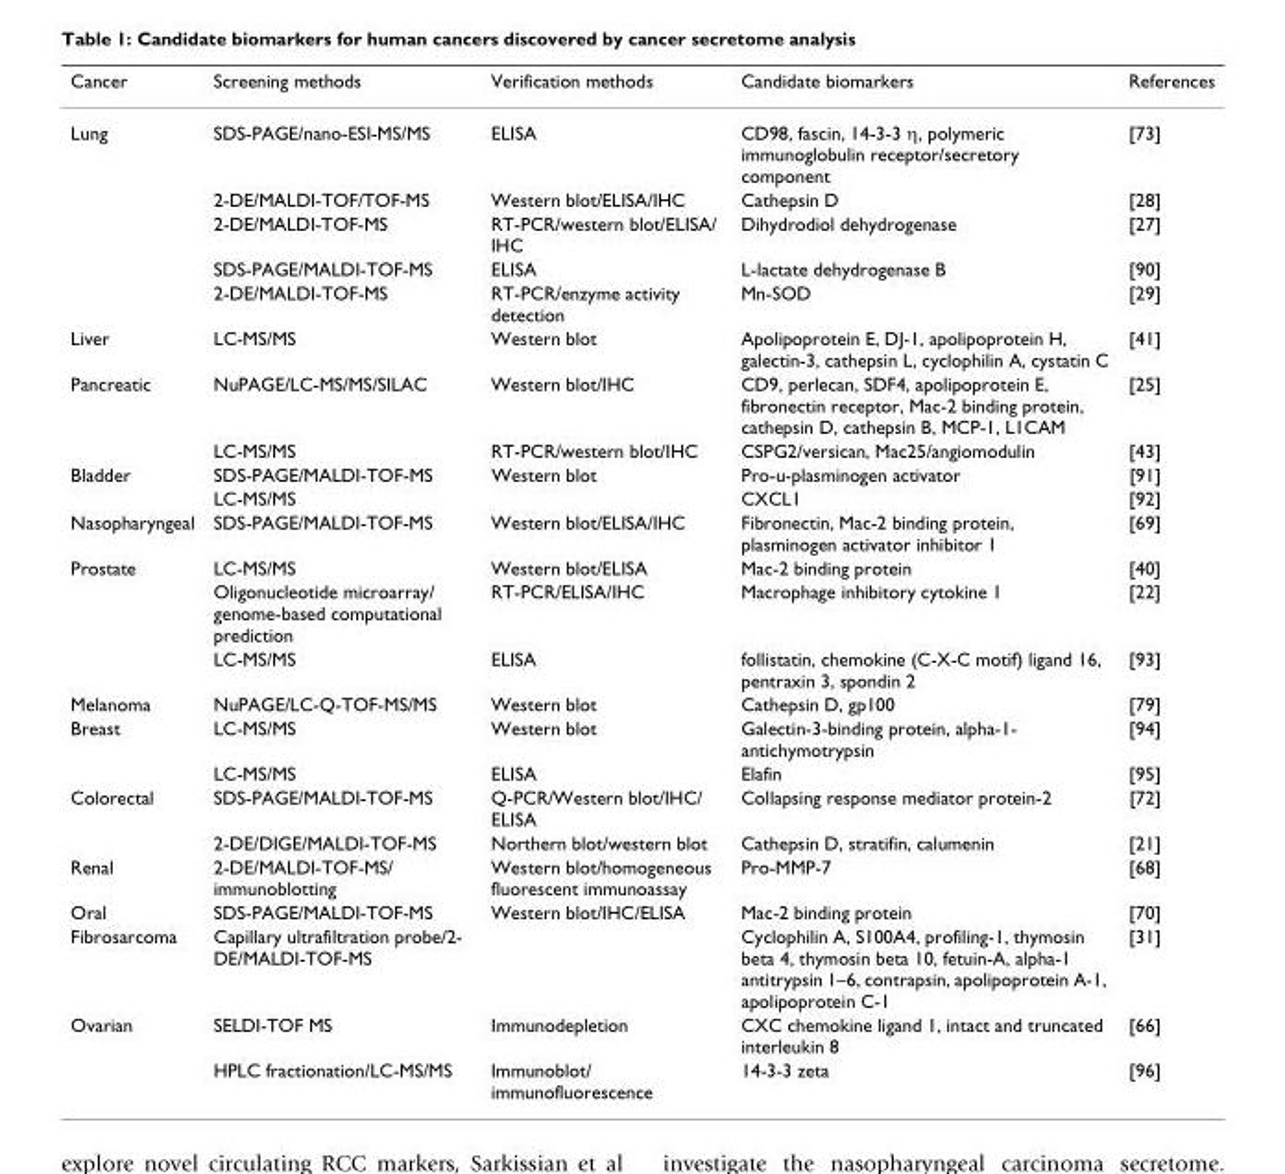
<table><thead><tr><td>Cancer</td><td>Screening methods</td><td>Verification methods</td><td>Candidate biomarkers</td><td>References</td></tr></thead><tbody><tr><td rowspan="5">Lung</td><td>SDS-PAGE/nano-ESI-MS/MS</td><td>ELISA</td><td>CD98, fascin, 14-3-3 η, polymeric immunoglobulin receptor/secretory component</td><td>[73]</td></tr><tr><td>2-DE/MALDI-TOF/TOF-MS</td><td>Western blot/ELISA/IHC</td><td>Cathepsin D</td><td>[28]</td></tr><tr><td>2-DE/MALDI-TOF-MS</td><td>RT-PCR/western blot/ELISA/ IHC</td><td>Dihydrodiol dehydrogenase</td><td>[27]</td></tr><tr><td>SDS-PAGE/MALDI-TOF-MS</td><td>ELISA</td><td>L-lactate dehydrogenase B</td><td>[90]</td></tr><tr><td>2-DE/MALDI-TOF-MS</td><td>RT-PCR/enzyme activity detection</td><td>Mn-SOD</td><td>[29]</td></tr><tr><td>Liver</td><td>LC-MS/MS</td><td>Western blot</td><td>Apolipoprotein E, DJ-1, apolipoprotein H, galectin-3, cathepsin L, cyclophilin A, cystatin C</td><td>[41]</td></tr><tr><td rowspan="2">Pancreatic</td><td>NuPAGE/LC-MS/MS/SILAC</td><td>Western blot/IHC</td><td>CD9, perlecan, SDF4, apolipoprotein E, fibronectin receptor, Mac-2 binding protein, cathepsin D, cathepsin B, MCP-1, L1CAM</td><td>[25]</td></tr><tr><td>LC-MS/MS</td><td>RT-PCR/western blot/IHC</td><td>CSPG2/versican, Mac25/angiomodulin</td><td>[43]</td></tr><tr><td rowspan="2">Bladder</td><td>SDS-PAGE/MALDI-TOF-MS</td><td>Western blot</td><td>Pro-u-plasminogen activator</td><td>[91]</td></tr><tr><td>LC-MS/MS</td><td></td><td>CXCL1</td><td>[92]</td></tr><tr><td>Nasopharyngeal</td><td>SDS-PAGE/MALDI-TOF-MS</td><td>Western blot/ELISA/IHC</td><td>Fibronectin, Mac-2 binding protein, plasminogen activator inhibitor 1</td><td>[69]</td></tr><tr><td rowspan="3">Prostate</td><td>LC-MS/MS</td><td>Western blot/ELISA</td><td>Mac-2 binding protein</td><td>[40]</td></tr><tr><td>Oligonucleotide microarray/ genome-based computational prediction</td><td>RT-PCR/ELISA/IHC</td><td>Macrophage inhibitory cytokine 1</td><td>[22]</td></tr><tr><td>LC-MS/MS</td><td>ELISA</td><td>follistatin, chemokine (C-X-C motif) ligand 16, pentraxin 3, spondin 2</td><td>[93]</td></tr><tr><td>Melanoma</td><td>NuPAGE/LC-Q-TOF-MS/MS</td><td>Western blot</td><td>Cathepsin D, gp100</td><td>[79]</td></tr><tr><td rowspan="2">Breast</td><td>LC-MS/MS</td><td>Western blot</td><td>Galectin-3-binding protein, alpha-1- antichymotrypsin</td><td>[94]</td></tr><tr><td>LC-MS/MS</td><td>ELISA</td><td>Elafin</td><td>[95]</td></tr><tr><td rowspan="2">Colorectal</td><td>SDS-PAGE/MALDI-TOF-MS</td><td>Q-PCR/Western blot/IHC/ ELISA</td><td>Collapsing response mediator protein-2</td><td>[72]</td></tr><tr><td>2-DE/DIGE/MALDI-TOF-MS</td><td>Northern blot/western blot</td><td>Cathepsin D, stratifin, calumenin</td><td>[21]</td></tr><tr><td>Renal</td><td>2-DE/MALDI-TOF-MS/ immunoblotting</td><td>Western blot/homogeneous fluorescent immunoassay</td><td>Pro-MMP-7</td><td>[68]</td></tr><tr><td>Oral</td><td>SDS-PAGE/MALDI-TOF-MS</td><td>Western blot/IHC/ELISA</td><td>Mac-2 binding protein</td><td>[70]</td></tr><tr><td>Fibrosarcoma</td><td>Capillary ultrafiltration probe/2- DE/MALDI-TOF-MS</td><td></td><td>Cyclophilin A, S100A4, profiling-1, thymosin beta 4, thymosin beta 10, fetuin-A, alpha-1 antitrypsin 1–6, contrapsin, apolipoprotein A-1, apolipoprotein C-1</td><td>[31]</td></tr><tr><td rowspan="2">Ovarian</td><td>SELDI-TOF MS</td><td>Immunodepletion</td><td>CXC chemokine ligand 1, intact and truncated interleukin 8</td><td>[66]</td></tr><tr><td>HPLC fractionation/LC-MS/MS</td><td>Immunoblot/ immunofluorescence</td><td>14-3-3 zeta</td><td>[96]</td></tr></tbody></table>